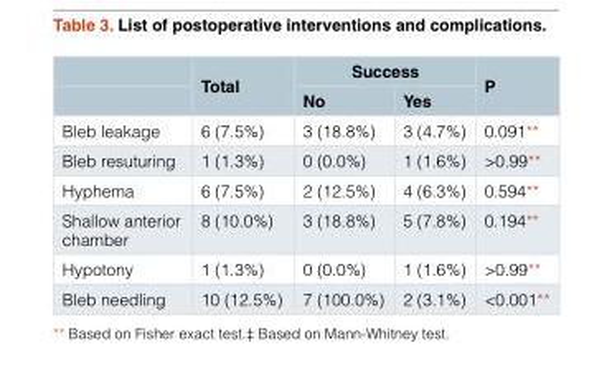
<table><thead><tr><td rowspan="2"></td><td rowspan="2">Total</td><td colspan="2">Success</td><td rowspan="2">P</td></tr><tr><td>No</td><td>Yes</td></tr></thead><tbody><tr><td>Bleb leakage</td><td>6 (7.5%)</td><td>3 (18.8%)</td><td>3 (4.7%)</td><td>0.091**</td></tr><tr><td>Bleb resuturing</td><td>1 (1.3%)</td><td>0 (0.0%)</td><td>1 (1.6%)</td><td>&gt;0.99**</td></tr><tr><td>Hyphema</td><td>6 (7.5%)</td><td>2 (12.5%)</td><td>4 (6.3%)</td><td>0.594**</td></tr><tr><td>Shallow anterior chamber</td><td>8 (10.0%)</td><td>3 (18.8%)</td><td>5 (7.8%)</td><td>0.194**</td></tr><tr><td>Hypotony</td><td>1 (1.3%)</td><td>0 (0.0%)</td><td>1 (1.6%)</td><td>&gt;0.99**</td></tr><tr><td>Bleb needling</td><td>10 (12.5%)</td><td>7 (100.0%)</td><td>2 (3.1%)</td><td>&lt;0.001**</td></tr></tbody></table>